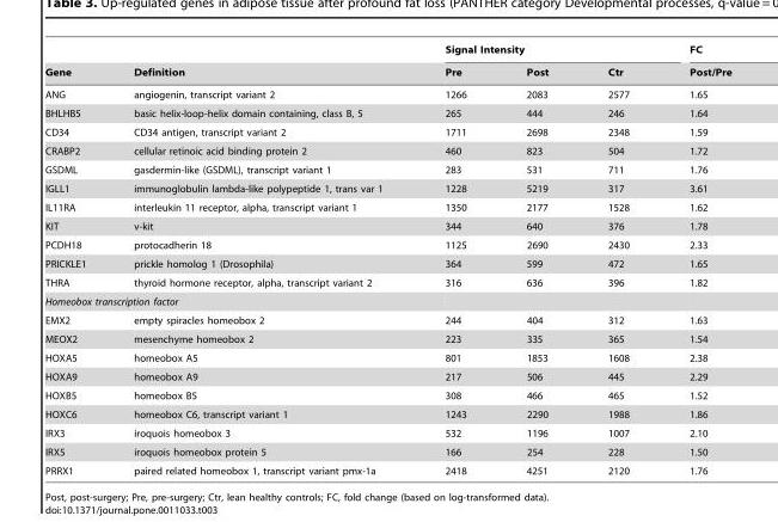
<table><thead><tr><td rowspan="2">Gene</td><td rowspan="2">Definition</td><td colspan="3">Signal Intensity</td><td rowspan="2">FC Post/Pre</td></tr><tr><td>Pre</td><td>Post</td><td>Ctr</td></tr></thead><tbody><tr><td>ANG</td><td>angiogenin, transcript variant 2</td><td>1266</td><td>2083</td><td>2577</td><td>1.65</td></tr><tr><td>BHLHB5</td><td>basic helix-loop-helix domain containing, class B, 5</td><td>265</td><td>444</td><td>246</td><td>1.64</td></tr><tr><td>CD34</td><td>CD34 antigen, transcript variant 2</td><td>1711</td><td>2698</td><td>2348</td><td>1.59</td></tr><tr><td>CRABP2</td><td>cellular retinoic acid binding protein 2</td><td>460</td><td>823</td><td>504</td><td>1.72</td></tr><tr><td>GSDML</td><td>gasdermin-like (GSDML), transcript variant 1</td><td>283</td><td>531</td><td>711</td><td>1.76</td></tr><tr><td>IGLL1</td><td>immunoglobulin lambda-like polypeptide 1, trans var 1</td><td>1228</td><td>5219</td><td>317</td><td>3.61</td></tr><tr><td>IL11RA</td><td>interleukin 11 receptor, alpha, transcript variant 1</td><td>1350</td><td>2177</td><td>1528</td><td>1.62</td></tr><tr><td>KIT</td><td>v-kit</td><td>344</td><td>640</td><td>376</td><td>1.78</td></tr><tr><td>PCDH18</td><td>protocadherin 18</td><td>1125</td><td>2690</td><td>2430</td><td>2.33</td></tr><tr><td>PRICKLE1</td><td>prickle homolog 1 (Drosophila)</td><td>364</td><td>599</td><td>472</td><td>1.65</td></tr><tr><td>THRA</td><td>thyroid hormone receptor, alpha, transcript variant 2</td><td>316</td><td>636</td><td>396</td><td>1.82</td></tr><tr><td colspan="6">Homeobox transcription factor</td></tr><tr><td>EMX2</td><td>empty spiracles homeobox 2</td><td>244</td><td>404</td><td>312</td><td>1.63</td></tr><tr><td>MEOX2</td><td>mesenchyme homeobox 2</td><td>223</td><td>335</td><td>365</td><td>1.54</td></tr><tr><td>HOXA5</td><td>homeobox A5</td><td>801</td><td>1853</td><td>1608</td><td>2.38</td></tr><tr><td>HOXA9</td><td>homeobox A9</td><td>217</td><td>506</td><td>445</td><td>2.29</td></tr><tr><td>HOXB5</td><td>homeobox B5</td><td>308</td><td>466</td><td>465</td><td>1.52</td></tr><tr><td>HOXC6</td><td>homeobox C6, transcript variant 1</td><td>1243</td><td>2290</td><td>1988</td><td>1.86</td></tr><tr><td>IRX3</td><td>iroquois homeobox 3</td><td>532</td><td>1196</td><td>1007</td><td>2.10</td></tr><tr><td>IRX5</td><td>iroquois homeobox protein 5</td><td>166</td><td>254</td><td>228</td><td>1.50</td></tr><tr><td>PRRX1</td><td>paired related homeobox 1, transcript variant pmx-1a</td><td>2418</td><td>4251</td><td>2120</td><td>1.76</td></tr></tbody></table>